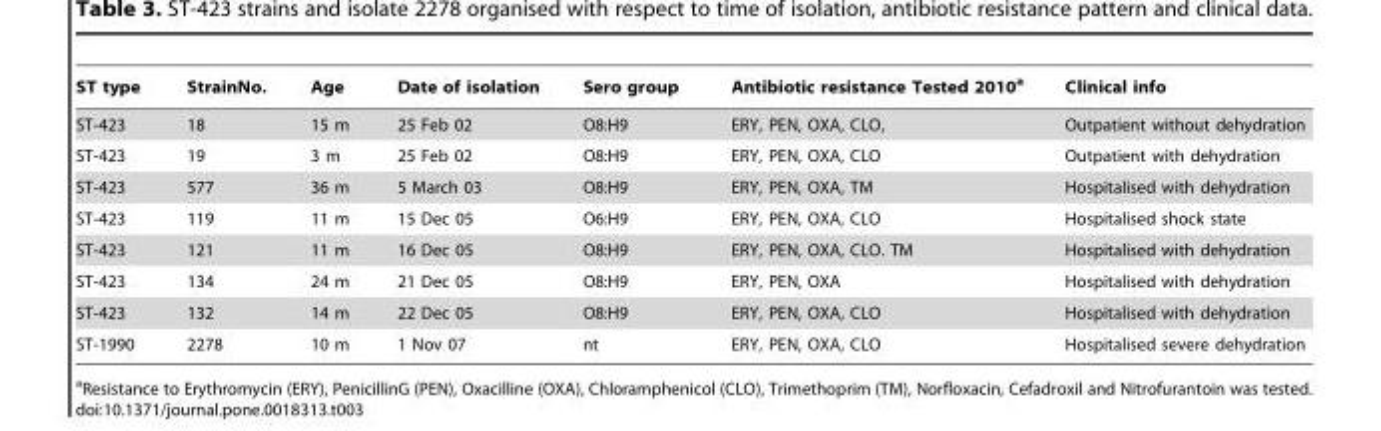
<table><thead><tr><td>ST type</td><td>StrainNo.</td><td>Age</td><td>Date of isolation</td><td>Sero group</td><td>Antibiotic resistance Tested 2010<sup>a</sup></td><td>Clinical info</td></tr></thead><tbody><tr><td>ST-423</td><td>18</td><td>15 m</td><td>25 Feb 02</td><td>O8:H9</td><td>ERY, PEN, OXA, CLO,</td><td>Outpatient without dehydration</td></tr><tr><td>ST-423</td><td>19</td><td>3 m</td><td>25 Feb 02</td><td>O8:H9</td><td>ERY, PEN, OXA, CLO</td><td>Outpatient with dehydration</td></tr><tr><td>ST-423</td><td>577</td><td>36 m</td><td>5 March 03</td><td>O8:H9</td><td>ERY, PEN, OXA, TM</td><td>Hospitalised with dehydration</td></tr><tr><td>ST-423</td><td>119</td><td>11 m</td><td>15 Dec 05</td><td>O6:H9</td><td>ERY, PEN, OXA, CLO</td><td>Hospitalised shock state</td></tr><tr><td>ST-423</td><td>121</td><td>11 m</td><td>16 Dec 05</td><td>O8:H9</td><td>ERY, PEN, OXA, CLO. TM</td><td>Hospitalised with dehydration</td></tr><tr><td>ST-423</td><td>134</td><td>24 m</td><td>21 Dec 05</td><td>O8:H9</td><td>ERY, PEN, OXA</td><td>Hospitalised with dehydration</td></tr><tr><td>ST-423</td><td>132</td><td>14 m</td><td>22 Dec 05</td><td>O8:H9</td><td>ERY, PEN, OXA, CLO</td><td>Hospitalised with dehydration</td></tr><tr><td>ST-1990</td><td>2278</td><td>10 m</td><td>1 Nov 07</td><td>nt</td><td>ERY, PEN, OXA, CLO</td><td>Hospitalised severe dehydration</td></tr></tbody></table>